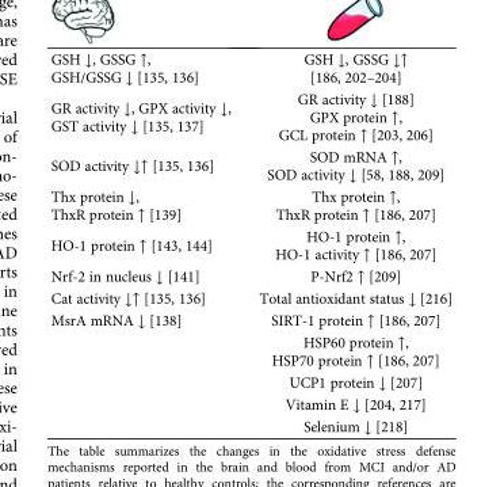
<table><tbody><tr><td>GSH ↓, GSSG ↑, GSH/GSSG ↓ [135, 136]</td><td>GSH ↓, GSSG ↓↑ [186, 202–204]</td></tr><tr><td>GR activity ↓, GPX activity ↓, GST activity ↓ [135, 137]</td><td>GR activity ↓ [188] GPX protein ↑, GCL protein ↑ [203, 206]</td></tr><tr><td>SOD activity ↓↑ [135, 136]</td><td>SOD mRNA ↑, SOD activity ↓ [58, 188, 209]</td></tr><tr><td>Thx protein ↓, ThxR protein ↑ [139]</td><td>Thx protein ↑, ThxR protein ↑ [186, 207]</td></tr><tr><td>HO-1 protein ↑ [143, 144]</td><td>HO-1 protein ↑, HO-1 activity ↑ [186, 207]</td></tr><tr><td>Nrf-2 in nucleus ↓ [141]</td><td>P-Nrf2 ↑ [209]</td></tr><tr><td>Cat activity ↓↑ [135, 136]</td><td>Total antioxidant status ↓ [216]</td></tr><tr><td rowspan="5">MsrA mRNA ↓ [138]</td><td>SIRT-1 protein ↑ [186, 207]</td></tr><tr><td>HSP60 protein ↑, HSP70 protein ↑ [186, 207]</td></tr><tr><td>UCP1 protein ↓ [207]</td></tr><tr><td>Vitamin E ↓ [204, 217]</td></tr><tr><td>Selenium ↓ [218]</td></tr></tbody></table>